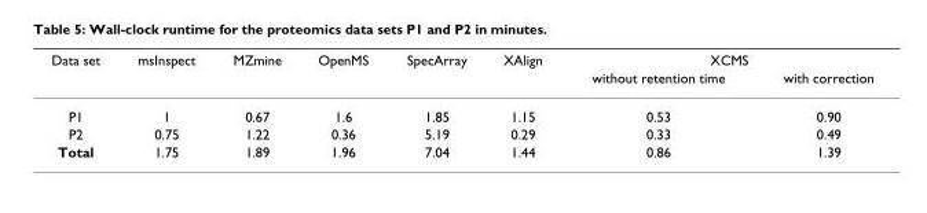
<table><thead><tr><td rowspan="2">Data set</td><td rowspan="2">msInspect</td><td rowspan="2">MZmine</td><td rowspan="2">OpenMS</td><td rowspan="2">SpecArray</td><td rowspan="2">XAlign</td><td colspan="2">XCMS</td></tr><tr><td>without retention time</td><td>with correction</td></tr></thead><tbody><tr><td>P1</td><td>1</td><td>0.67</td><td>1.6</td><td>1.85</td><td>1.15</td><td>0.53</td><td>0.90</td></tr><tr><td>P2</td><td>0.75</td><td>1.22</td><td>0.36</td><td>5.19</td><td>0.29</td><td>0.33</td><td>0.49</td></tr><tr><td>Total</td><td>1.75</td><td>1.89</td><td>1.96</td><td>7.04</td><td>1.44</td><td>0.86</td><td>1.39</td></tr></tbody></table>